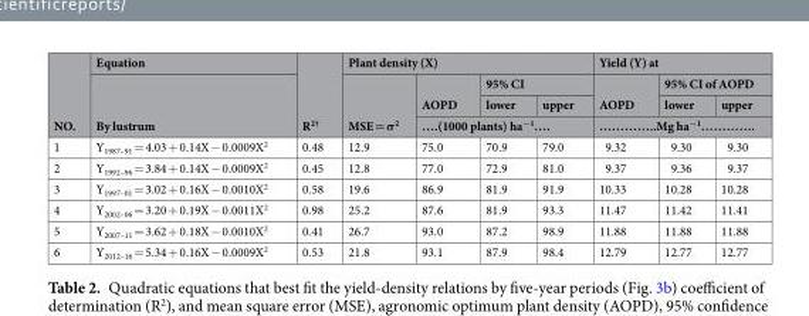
<table><thead><tr><td rowspan="4">NO.</td><td rowspan="4">Equation By lustrum</td><td rowspan="4">R<sup>2†</sup></td><td colspan="4">Plant density (X)</td><td colspan="3">Yield (Y) at</td></tr><tr><td rowspan="3">MSE = σ<sup>2</sup></td><td rowspan="2">AOPD</td><td colspan="2">95% CI</td><td rowspan="2">AOPD</td><td colspan="2">95% CI of AOPD</td></tr><tr><td>lower</td><td>upper</td><td>lower</td><td>upper</td></tr><tr><td colspan="3">….(1000 plants) ha<sup>−1</sup>….</td><td colspan="3">…………..Mg ha<sup>−1</sup>………….</td></tr></thead><tbody><tr><td>1</td><td>Y<sub>1987–91</sub> = 4.03 + 0.14X − 0.0009X<sup>2</sup></td><td>0.48</td><td>12.9</td><td>75.0</td><td>70.9</td><td>79.0</td><td>9.32</td><td>9.30</td><td>9.30</td></tr><tr><td>2</td><td>Y<sub>1992–96</sub> = 3.84 + 0.14X − 0.0009X<sup>2</sup></td><td>0.45</td><td>12.8</td><td>77.0</td><td>72.9</td><td>81.0</td><td>9.37</td><td>9.36</td><td>9.37</td></tr><tr><td>3</td><td>Y<sub>1997–01</sub> = 3.02 + 0.16X − 0.0010X<sup>2</sup></td><td>0.58</td><td>19.6</td><td>86.9</td><td>81.9</td><td>91.9</td><td>10.33</td><td>10.28</td><td>10.28</td></tr><tr><td>4</td><td>Y<sub>2002–06</sub> = 3.20 + 0.19X − 0.0011X<sup>2</sup></td><td>0.98</td><td>25.2</td><td>87.6</td><td>81.9</td><td>93.3</td><td>11.47</td><td>11.42</td><td>11.41</td></tr><tr><td>5</td><td>Y<sub>2007–11</sub> = 3.62 + 0.18X − 0.0010X<sup>2</sup></td><td>0.41</td><td>26.7</td><td>93.0</td><td>87.2</td><td>98.9</td><td>11.88</td><td>11.88</td><td>11.88</td></tr><tr><td>6</td><td>Y<sub>2012–16</sub> = 5.34 + 0.16X − 0.0009X<sup>2</sup></td><td>0.53</td><td>21.8</td><td>93.1</td><td>87.9</td><td>98.4</td><td>12.79</td><td>12.77</td><td>12.77</td></tr></tbody></table>